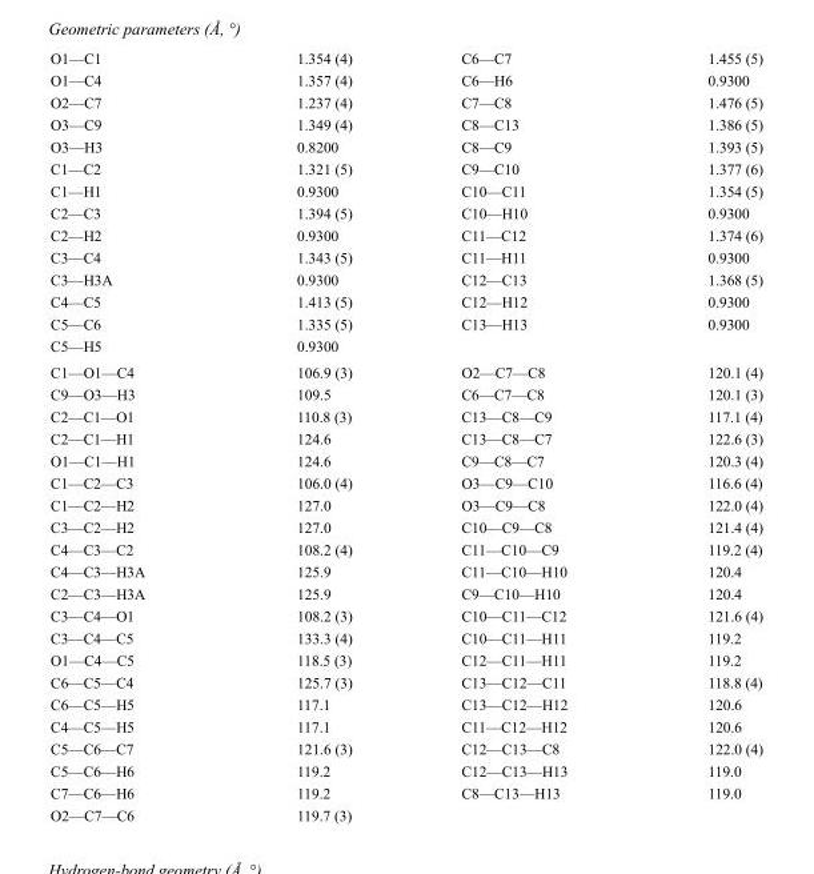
<table><tbody><tr><td>O1—C1</td><td>1.354 (4)</td><td>C6—C7</td><td>1.455 (5)</td></tr><tr><td>O1—C4</td><td>1.357 (4)</td><td>C6—H6</td><td>0.9300</td></tr><tr><td>O2—C7</td><td>1.237 (4)</td><td>C7—C8</td><td>1.476 (5)</td></tr><tr><td>O3—C9</td><td>1.349 (4)</td><td>C8—C13</td><td>1.386 (5)</td></tr><tr><td>O3—H3</td><td>0.8200</td><td>C8—C9</td><td>1.393 (5)</td></tr><tr><td>C1—C2</td><td>1.321 (5)</td><td>C9—C10</td><td>1.377 (6)</td></tr><tr><td>C1—H1</td><td>0.9300</td><td>C10—C11</td><td>1.354 (5)</td></tr><tr><td>C2—C3</td><td>1.394 (5)</td><td>C10—H10</td><td>0.9300</td></tr><tr><td>C2—H2</td><td>0.9300</td><td>C11—C12</td><td>1.374 (6)</td></tr><tr><td>C3—C4</td><td>1.343 (5)</td><td>C11—H11</td><td>0.9300</td></tr><tr><td>C3—H3A</td><td>0.9300</td><td>C12—C13</td><td>1.368 (5)</td></tr><tr><td>C4—C5</td><td>1.413 (5)</td><td>C12—H12</td><td>0.9300</td></tr><tr><td>C5—C6</td><td>1.335 (5)</td><td>C13—H13</td><td>0.9300</td></tr><tr><td>C5—H5</td><td>0.9300</td><td></td><td></td></tr><tr><td>C1—O1—C4</td><td>106.9 (3)</td><td>O2—C7—C8</td><td>120.1 (4)</td></tr><tr><td>C9—O3—H3</td><td>109.5</td><td>C6—C7—C8</td><td>120.1 (3)</td></tr><tr><td>C2—C1—O1</td><td>110.8 (3)</td><td>C13—C8—C9</td><td>117.1 (4)</td></tr><tr><td>C2—C1—H1</td><td>124.6</td><td>C13—C8—C7</td><td>122.6 (3)</td></tr><tr><td>O1—C1—H1</td><td>124.6</td><td>C9—C8—C7</td><td>120.3 (4)</td></tr><tr><td>C1—C2—C3</td><td>106.0 (4)</td><td>O3—C9—C10</td><td>116.6 (4)</td></tr><tr><td>C1—C2—H2</td><td>127.0</td><td>O3—C9—C8</td><td>122.0 (4)</td></tr><tr><td>C3—C2—H2</td><td>127.0</td><td>C10—C9—C8</td><td>121.4 (4)</td></tr><tr><td>C4—C3—C2</td><td>108.2 (4)</td><td>C11—C10—C9</td><td>119.2 (4)</td></tr><tr><td>C4—C3—H3A</td><td>125.9</td><td>C11—C10—H10</td><td>120.4</td></tr><tr><td>C2—C3—H3A</td><td>125.9</td><td>C9—C10—H10</td><td>120.4</td></tr><tr><td>C3—C4—O1</td><td>108.2 (3)</td><td>C10—C11—C12</td><td>121.6 (4)</td></tr><tr><td>C3—C4—C5</td><td>133.3 (4)</td><td>C10—C11—H11</td><td>119.2</td></tr><tr><td>O1—C4—C5</td><td>118.5 (3)</td><td>C12—C11—H11</td><td>119.2</td></tr><tr><td>C6—C5—C4</td><td>125.7 (3)</td><td>C13—C12—C11</td><td>118.8 (4)</td></tr><tr><td>C6—C5—H5</td><td>117.1</td><td>C13—C12—H12</td><td>120.6</td></tr><tr><td>C4—C5—H5</td><td>117.1</td><td>C11—C12—H12</td><td>120.6</td></tr><tr><td>C5—C6—C7</td><td>121.6 (3)</td><td>C12—C13—C8</td><td>122.0 (4)</td></tr><tr><td>C5—C6—H6</td><td>119.2</td><td>C12—C13—H13</td><td>119.0</td></tr><tr><td>C7—C6—H6</td><td>119.2</td><td>C8—C13—H13</td><td>119.0</td></tr><tr><td>O2—C7—C6</td><td>119.7 (3)</td><td></td><td></td></tr></tbody></table>